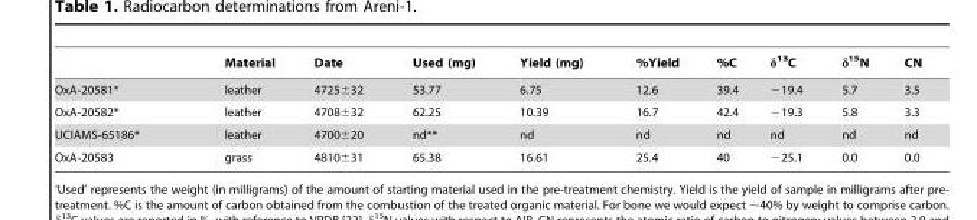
<table><thead><tr><td></td><td>Material</td><td>Date</td><td>Used (mg)</td><td>Yield (mg)</td><td>%Yield</td><td>%C</td><td>δ<sup>13</sup>C</td><td>δ<sup>15</sup>N</td><td>CN</td></tr></thead><tbody><tr><td>OxA-20581*</td><td>leather</td><td>4725±32</td><td>53.77</td><td>6.75</td><td>12.6</td><td>39.4</td><td>−19.4</td><td>5.7</td><td>3.5</td></tr><tr><td>OxA-20582*</td><td>leather</td><td>4708±32</td><td>62.25</td><td>10.39</td><td>16.7</td><td>42.4</td><td>−19.3</td><td>5.8</td><td>3.3</td></tr><tr><td>UCIAMS-65186*</td><td>leather</td><td>4700±20</td><td>nd**</td><td>nd</td><td>nd</td><td>nd</td><td>nd</td><td>nd</td><td>nd</td></tr><tr><td>OxA-20583</td><td>grass</td><td>4810±31</td><td>65.38</td><td>16.61</td><td>25.4</td><td>40</td><td>−25.1</td><td>0.0</td><td>0.0</td></tr></tbody></table>